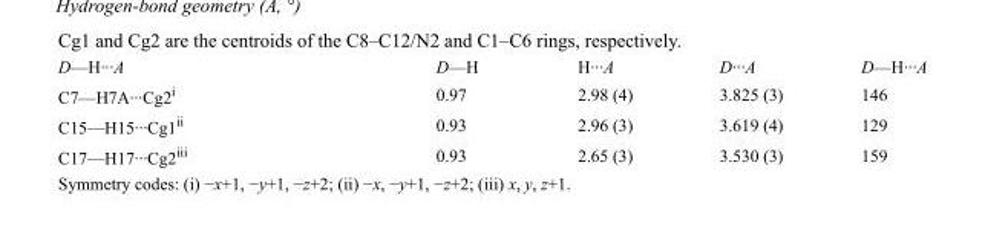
<table><tbody><tr><td>D—H···A</td><td>D—H</td><td>H···A</td><td>D···A</td><td>D—H···A</td></tr><tr><td>C7—H7A···Cg2<sup>i</sup></td><td>0.97</td><td>2.98 (4)</td><td>3.825 (3)</td><td>146</td></tr><tr><td>C15—H15···Cg1<sup>ii</sup></td><td>0.93</td><td>2.96 (3)</td><td>3.619 (4)</td><td>129</td></tr><tr><td>C17—H17···Cg2<sup>iii</sup></td><td>0.93</td><td>2.65 (3)</td><td>3.530 (3)</td><td>159</td></tr></tbody></table>